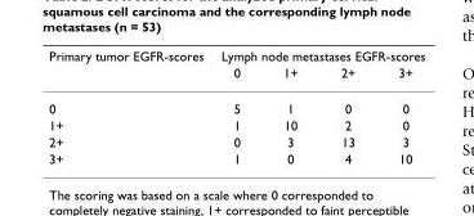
<table><thead><tr><td rowspan="2">Primary tumor EGFR-scores</td><td colspan="4">Lymph node metastases EGFR-scores</td></tr><tr><td>0</td><td>1+</td><td>2+</td><td>3+</td></tr></thead><tbody><tr><td>0</td><td>5</td><td>1</td><td>0</td><td>0</td></tr><tr><td>1+</td><td>1</td><td>10</td><td>2</td><td>0</td></tr><tr><td>2+</td><td>0</td><td>3</td><td>13</td><td>3</td></tr><tr><td>3+</td><td>1</td><td>0</td><td>4</td><td>10</td></tr></tbody></table>